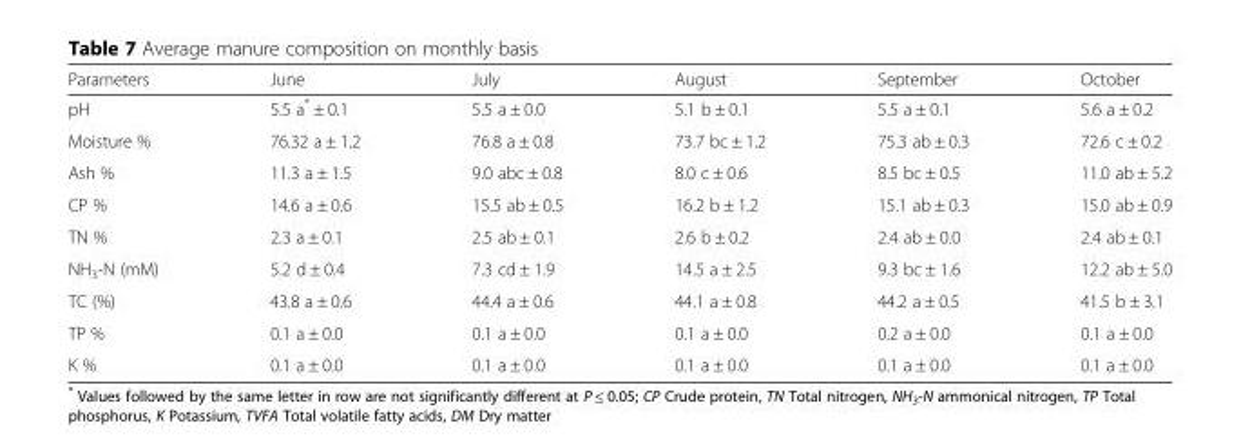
<table><thead><tr><td>Parameters</td><td>June</td><td>July</td><td>August</td><td>September</td><td>October</td></tr></thead><tbody><tr><td>pH</td><td>5.5 a* ± 0.1</td><td>5.5 a ± 0.0</td><td>5.1 b ± 0.1</td><td>5.5 a ± 0.1</td><td>5.6 a ± 0.2</td></tr><tr><td>Moisture %</td><td>76.32 a ± 1.2</td><td>76.8 a ± 0.8</td><td>73.7 bc ± 1.2</td><td>75.3 ab ± 0.3</td><td>72.6 c ± 0.2</td></tr><tr><td>Ash %</td><td>11.3 a ± 1.5</td><td>9.0 abc ± 0.8</td><td>8.0 c ± 0.6</td><td>8.5 bc ± 0.5</td><td>11.0 ab ± 5.2</td></tr><tr><td>CP %</td><td>14.6 a ± 0.6</td><td>15.5 ab ± 0.5</td><td>16.2 b ± 1.2</td><td>15.1 ab ± 0.3</td><td>15.0 ab ± 0.9</td></tr><tr><td>TN %</td><td>2.3 a ± 0.1</td><td>2.5 ab ± 0.1</td><td>2.6 b ± 0.2</td><td>2.4 ab ± 0.0</td><td>2.4 ab ± 0.1</td></tr><tr><td>NH<sub>3</sub>-N (mM)</td><td>5.2 d ± 0.4</td><td>7.3 cd ± 1.9</td><td>14.5 a ± 2.5</td><td>9.3 bc ± 1.6</td><td>12.2 ab ± 5.0</td></tr><tr><td>TC (%)</td><td>43.8 a ± 0.6</td><td>44.4 a ± 0.6</td><td>44.1 a ± 0.8</td><td>44.2 a ± 0.5</td><td>41.5 b ± 3.1</td></tr><tr><td>TP %</td><td>0.1 a ± 0.0</td><td>0.1 a ± 0.0</td><td>0.1 a ± 0.0</td><td>0.2 a ± 0.0</td><td>0.1 a ± 0.0</td></tr><tr><td>K %</td><td>0.1 a ± 0.0</td><td>0.1 a ± 0.0</td><td>0.1 a ± 0.0</td><td>0.1 a ± 0.0</td><td>0.1 a ± 0.0</td></tr></tbody></table>